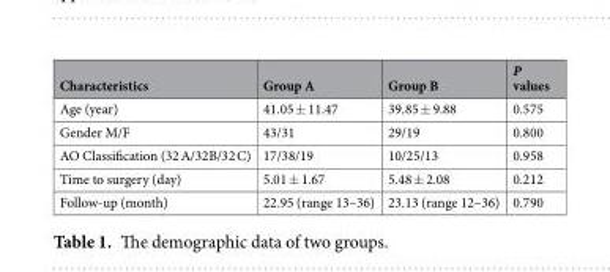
<table><thead><tr><td>Characteristics</td><td>Group A</td><td>Group B</td><td>P values</td></tr></thead><tbody><tr><td>Age (year)</td><td>41.05 ± 11.47</td><td>39.85 ± 9.88</td><td>0.575</td></tr><tr><td>Gender M/F</td><td>43/31</td><td>29/19</td><td>0.800</td></tr><tr><td>AO Classification (32 A/32B/32 C)</td><td>17/38/19</td><td>10/25/13</td><td>0.958</td></tr><tr><td>Time to surgery (day)</td><td>5.01 ± 1.67</td><td>5.48 ± 2.08</td><td>0.212</td></tr><tr><td>Follow-up (month)</td><td>22.95 (range 13–36)</td><td>23.13 (range 12–36)</td><td>0.790</td></tr></tbody></table>